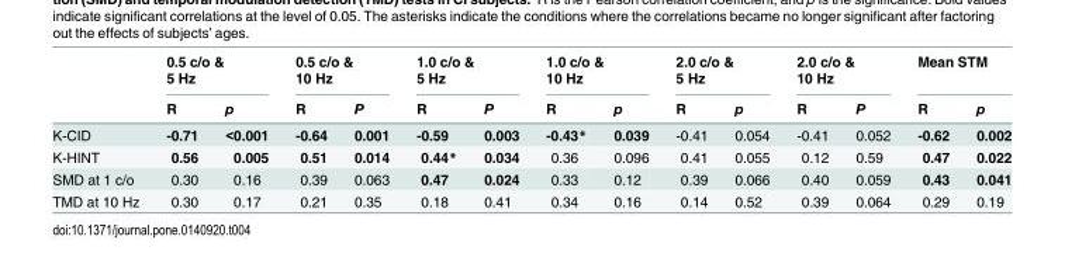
<table><thead><tr><td rowspan="2"></td><td colspan="2">0.5 c/o &amp; 5 Hz</td><td colspan="2">0.5 c/o &amp; 10 Hz</td><td colspan="2">1.0 c/o &amp; 5 Hz</td><td colspan="2">1.0 c/o &amp; 10 Hz</td><td colspan="2">2.0 c/o &amp; 5 Hz</td><td colspan="2">2.0 c/o &amp; 10 Hz</td><td colspan="2">Mean STM</td></tr><tr><td>R</td><td>p</td><td>R</td><td>P</td><td>R</td><td>P</td><td>R</td><td>p</td><td>R</td><td>p</td><td>R</td><td>P</td><td>R</td><td>p</td></tr></thead><tbody><tr><td>K-CID</td><td>-0.71</td><td>&lt;0.001</td><td>-0.64</td><td>0.001</td><td>-0.59</td><td>0.003</td><td>-0.43*</td><td>0.039</td><td>-0.41</td><td>0.054</td><td>-0.41</td><td>0.052</td><td>-0.62</td><td>0.002</td></tr><tr><td>K-HINT</td><td>0.56</td><td>0.005</td><td>0.51</td><td>0.014</td><td>0.44*</td><td>0.034</td><td>0.36</td><td>0.096</td><td>0.41</td><td>0.055</td><td>0.12</td><td>0.59</td><td>0.47</td><td>0.022</td></tr><tr><td>SMD at 1 c/o</td><td>0.30</td><td>0.16</td><td>0.39</td><td>0.063</td><td>0.47</td><td>0.024</td><td>0.33</td><td>0.12</td><td>0.39</td><td>0.066</td><td>0.40</td><td>0.059</td><td>0.43</td><td>0.041</td></tr><tr><td>TMD at 10 Hz</td><td>0.30</td><td>0.17</td><td>0.21</td><td>0.35</td><td>0.18</td><td>0.41</td><td>0.34</td><td>0.16</td><td>0.14</td><td>0.52</td><td>0.39</td><td>0.064</td><td>0.29</td><td>0.19</td></tr></tbody></table>